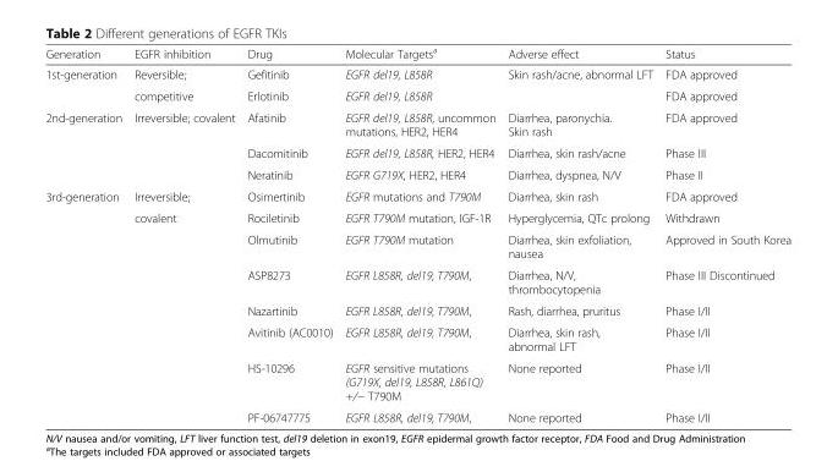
<table><thead><tr><td>Generation</td><td>EGFR inhibition</td><td>Drug</td><td>Molecular Targets<sup>a</sup></td><td>Adverse effect</td><td>Status</td></tr></thead><tbody><tr><td rowspan="2">1st-generation</td><td>Reversible;</td><td>Gefitinib</td><td>EGFR del19, L858R</td><td>Skin rash/acne, abnormal LFT</td><td>FDA approved</td></tr><tr><td>competitive</td><td>Erlotinib</td><td>EGFR del19, L858R</td><td></td><td>FDA approved</td></tr><tr><td rowspan="3">2nd-generation</td><td>Irreversible; covalent</td><td>Afatinib</td><td>EGFR del19, L858R, uncommon mutations, HER2, HER4</td><td>Diarrhea, paronychia. Skin rash</td><td>FDA approved</td></tr><tr><td></td><td>Dacomitinib</td><td>EGFR del19, L858R, HER2, HER4</td><td>Diarrhea, skin rash/acne</td><td>Phase III</td></tr><tr><td></td><td>Neratinib</td><td>EGFR G719X, HER2, HER4</td><td>Diarrhea, dyspnea, N/V</td><td>Phase II</td></tr><tr><td rowspan="8">3rd-generation</td><td>Irreversible;</td><td>Osimertinib</td><td>EGFR mutations and T790M</td><td>Diarrhea, skin rash</td><td>FDA approved</td></tr><tr><td>covalent</td><td>Rociletinib</td><td>EGFR T790M mutation, IGF-1R</td><td>Hyperglycemia, QTc prolong</td><td>Withdrawn</td></tr><tr><td></td><td>Olmutinib</td><td>EGFR T790M mutation</td><td>Diarrhea, skin exfoliation, nausea</td><td>Approved in South Korea</td></tr><tr><td></td><td>ASP8273</td><td>EGFR L858R, del19, T790M,</td><td>Diarrhea, N/V, thrombocytopenia</td><td>Phase III Discontinued</td></tr><tr><td></td><td>Nazartinib</td><td>EGFR L858R, del19, T790M,</td><td>Rash, diarrhea, pruritus</td><td>Phase I/II</td></tr><tr><td></td><td>Avitinib (AC0010)</td><td>EGFR L858R, del19, T790M,</td><td>Diarrhea, skin rash, abnormal LFT</td><td>Phase I/II</td></tr><tr><td></td><td>HS-10296</td><td>EGFR sensitive mutations (G719X, del19, L858R, L861Q) +/− T790M</td><td>None reported</td><td>Phase I/II</td></tr><tr><td></td><td>PF-06747775</td><td>EGFR L858R, del19, T790M,</td><td>None reported</td><td>Phase I/II</td></tr></tbody></table>